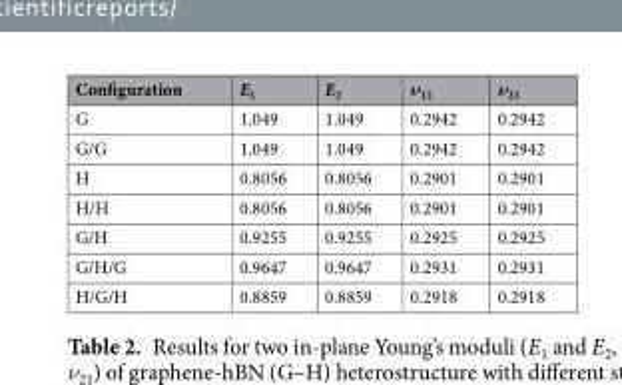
<table><thead><tr><td>Configuration</td><td>E<sub>1</sub></td><td>E<sub>2</sub></td><td>ν<sub>12</sub></td><td>ν<sub>21</sub></td></tr></thead><tbody><tr><td>G</td><td>1.049</td><td>1.049</td><td>0.2942</td><td>0.2942</td></tr><tr><td>G/G</td><td>1.049</td><td>1.049</td><td>0.2942</td><td>0.2942</td></tr><tr><td>H</td><td>0.8056</td><td>0.8056</td><td>0.2901</td><td>0.2901</td></tr><tr><td>H/H</td><td>0.8056</td><td>0.8056</td><td>0.2901</td><td>0.2901</td></tr><tr><td>G/H</td><td>0.9255</td><td>0.9255</td><td>0.2925</td><td>0.2925</td></tr><tr><td>G/H/G</td><td>0.9647</td><td>0.9647</td><td>0.2931</td><td>0.2931</td></tr><tr><td>H/G/H</td><td>0.8859</td><td>0.8859</td><td>0.2918</td><td>0.2918</td></tr></tbody></table>